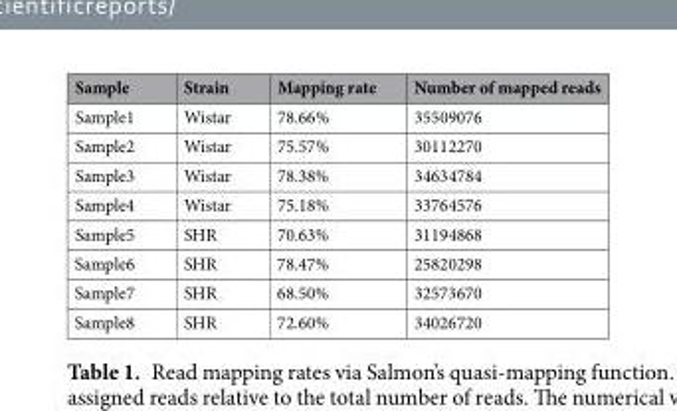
<table><thead><tr><td>Sample</td><td>Strain</td><td>Mapping rate</td><td>Number of mapped reads</td></tr></thead><tbody><tr><td>Sample1</td><td>Wistar</td><td>78.66%</td><td>35509076</td></tr><tr><td>Sample2</td><td>Wistar</td><td>75.57%</td><td>30112270</td></tr><tr><td>Sample3</td><td>Wistar</td><td>78.38%</td><td>34634784</td></tr><tr><td>Sample4</td><td>Wistar</td><td>75.18%</td><td>33764576</td></tr><tr><td>Sample5</td><td>SHR</td><td>70.63%</td><td>31194868</td></tr><tr><td>Sample6</td><td>SHR</td><td>78.47%</td><td>25820298</td></tr><tr><td>Sample7</td><td>SHR</td><td>68.50%</td><td>32573670</td></tr><tr><td>Sample8</td><td>SHR</td><td>72.60%</td><td>34026720</td></tr></tbody></table>